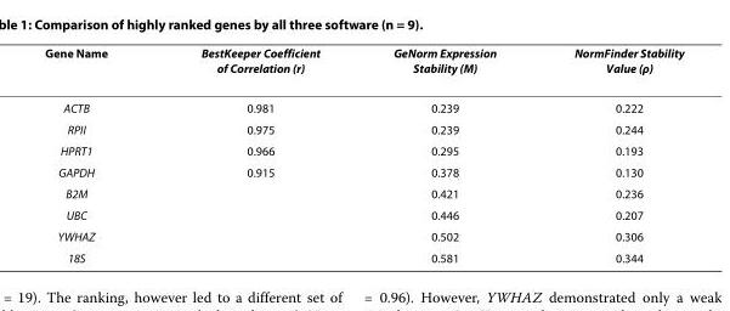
<table><thead><tr><td>Gene Name</td><td>BestKeeper Coefficient of Correlation (r)</td><td>GeNorm Expression Stability (M)</td><td>NormFinder Stability Value (ρ)</td></tr></thead><tbody><tr><td>ACTB</td><td>0.981</td><td>0.239</td><td>0.222</td></tr><tr><td>RPII</td><td>0.975</td><td>0.239</td><td>0.244</td></tr><tr><td>HPRT1</td><td>0.966</td><td>0.295</td><td>0.193</td></tr><tr><td>GAPDH</td><td>0.915</td><td>0.378</td><td>0.130</td></tr><tr><td>B2M</td><td></td><td>0.421</td><td>0.236</td></tr><tr><td>UBC</td><td></td><td>0.446</td><td>0.207</td></tr><tr><td>YWHAZ</td><td></td><td>0.502</td><td>0.306</td></tr><tr><td>18S</td><td></td><td>0.581</td><td>0.344</td></tr></tbody></table>